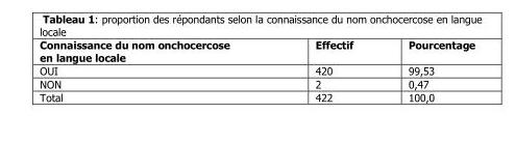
<table><thead><tr><td>Connaissance du nom onchocercose en langue locale</td><td>Effectif</td><td>Pourcentage</td></tr></thead><tbody><tr><td>OUI</td><td>420</td><td>99,53</td></tr><tr><td>NON</td><td>2</td><td>0,47</td></tr><tr><td>Total</td><td>422</td><td>100,0</td></tr></tbody></table>